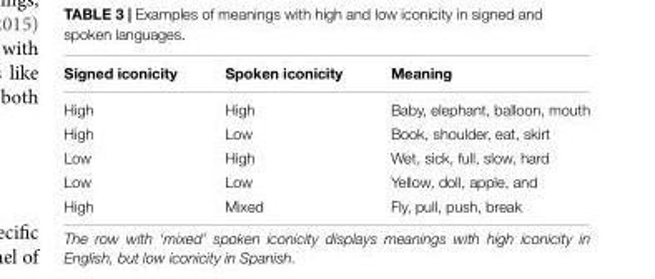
<table><thead><tr><td>Signed iconicity</td><td>Spoken iconicity</td><td>Meaning</td></tr></thead><tbody><tr><td>High</td><td>High</td><td>Baby, elephant, balloon, mouth</td></tr><tr><td>High</td><td>Low</td><td>Book, shoulder, eat, skirt</td></tr><tr><td>Low</td><td>High</td><td>Wet, sick, full, slow, hard</td></tr><tr><td>Low</td><td>Low</td><td>Yellow, doll, apple, and</td></tr><tr><td>High</td><td>Mixed</td><td>Fly, pull, push, break</td></tr></tbody></table>